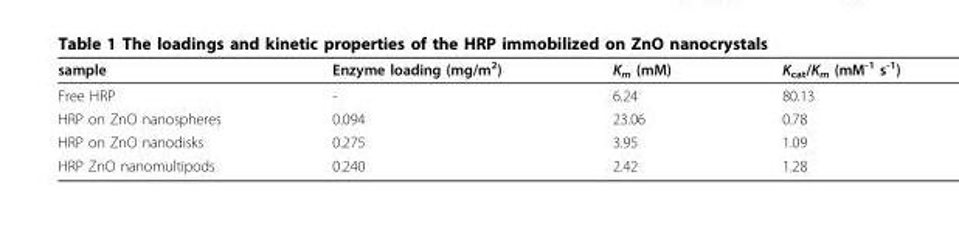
<table><thead><tr><td>sample</td><td>Enzyme loading (mg/m<sup>2</sup>)</td><td>K<sub>m</sub> (mM)</td><td>K<sub>cat</sub>/K<sub>m</sub> (mM<sup>-1</sup> s<sup>-1</sup>)</td></tr></thead><tbody><tr><td>Free HRP</td><td>-</td><td>6.24</td><td>80.13</td></tr><tr><td>HRP on ZnO nanospheres</td><td>0.094</td><td>23.06</td><td>0.78</td></tr><tr><td>HRP on ZnO nanodisks</td><td>0.275</td><td>3.95</td><td>1.09</td></tr><tr><td>HRP ZnO nanomultipods</td><td>0.240</td><td>2.42</td><td>1.28</td></tr></tbody></table>